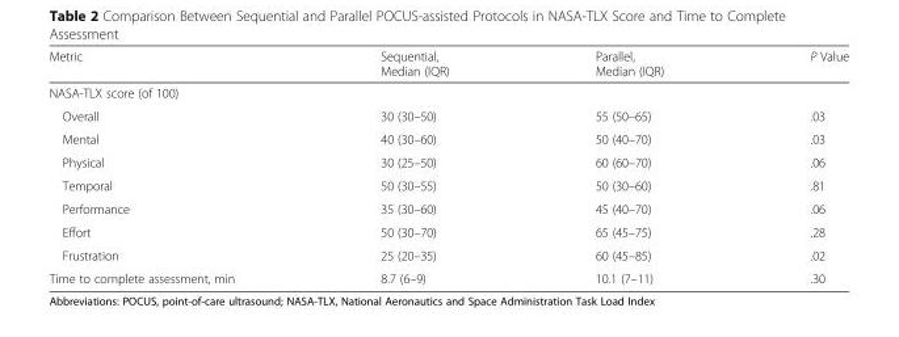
<table><thead><tr><td>Metric</td><td>Sequential, Median (IQR)</td><td>Parallel, Median (IQR)</td><td>P Value</td></tr></thead><tbody><tr><td colspan="4">NASA-TLX score (of 100)</td></tr><tr><td>Overall</td><td>30 (30–50)</td><td>55 (50–65)</td><td>.03</td></tr><tr><td>Mental</td><td>40 (30–60)</td><td>50 (40–70)</td><td>.03</td></tr><tr><td>Physical</td><td>30 (25–50)</td><td>60 (60–70)</td><td>.06</td></tr><tr><td>Temporal</td><td>50 (30–55)</td><td>50 (30–60)</td><td>.81</td></tr><tr><td>Performance</td><td>35 (30–60)</td><td>45 (40–70)</td><td>.06</td></tr><tr><td>Effort</td><td>50 (30–70)</td><td>65 (45–75)</td><td>.28</td></tr><tr><td>Frustration</td><td>25 (20–35)</td><td>60 (45–85)</td><td>.02</td></tr><tr><td>Time to complete assessment, min</td><td>8.7 (6–9)</td><td>10.1 (7–11)</td><td>.30</td></tr></tbody></table>